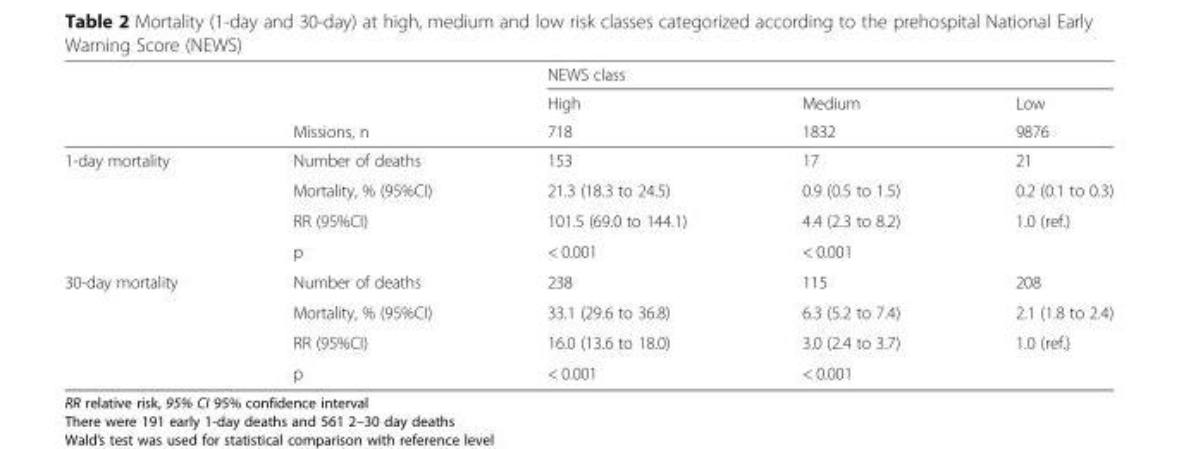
<table><thead><tr><td rowspan="3"></td><td rowspan="3">Missions, n</td><td colspan="3">NEWS class</td></tr><tr><td rowspan="2">High 718</td><td rowspan="2">Medium 1832</td><td rowspan="2">Low 9876</td></tr><tr></tr></thead><tbody><tr><td rowspan="4">1-day mortality</td><td>Number of deaths</td><td>153</td><td>17</td><td>21</td></tr><tr><td>Mortality, % (95%CI)</td><td>21.3 (18.3 to 24.5)</td><td>0.9 (0.5 to 1.5)</td><td>0.2 (0.1 to 0.3)</td></tr><tr><td>RR (95%CI)</td><td>101.5 (69.0 to 144.1)</td><td>4.4 (2.3 to 8.2)</td><td>1.0 (ref.)</td></tr><tr><td>p</td><td>&lt; 0.001</td><td>&lt; 0.001</td><td></td></tr><tr><td rowspan="4">30-day mortality</td><td>Number of deaths</td><td>238</td><td>115</td><td>208</td></tr><tr><td>Mortality, % (95%CI)</td><td>33.1 (29.6 to 36.8)</td><td>6.3 (5.2 to 7.4)</td><td>2.1 (1.8 to 2.4)</td></tr><tr><td>RR (95%CI)</td><td>16.0 (13.6 to 18.0)</td><td>3.0 (2.4 to 3.7)</td><td>1.0 (ref.)</td></tr><tr><td>p</td><td>&lt; 0.001</td><td>&lt; 0.001</td><td></td></tr></tbody></table>